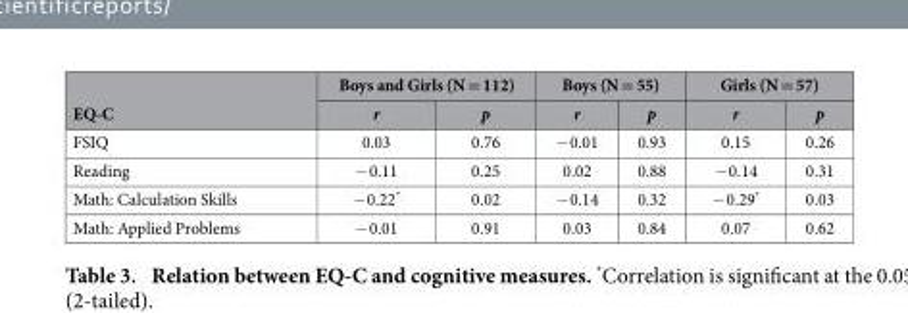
<table><thead><tr><td rowspan="2">EQ-C</td><td colspan="2">Boys and Girls (N = 112)</td><td colspan="2">Boys (N = 55)</td><td colspan="2">Girls (N = 57)</td></tr><tr><td>r</td><td>p</td><td>r</td><td>p</td><td>r</td><td>p</td></tr></thead><tbody><tr><td>FSIQ</td><td>0.03</td><td>0.76</td><td>− 0.01</td><td>0.93</td><td>0.15</td><td>0.26</td></tr><tr><td>Reading</td><td>− 0.11</td><td>0.25</td><td>0.02</td><td>0.88</td><td>− 0.14</td><td>0.31</td></tr><tr><td>Math: Calculation Skills</td><td>− 0.22*</td><td>0.02</td><td>− 0.14</td><td>0.32</td><td>− 0.29*</td><td>0.03</td></tr><tr><td>Math: Applied Problems</td><td>− 0.01</td><td>0.91</td><td>0.03</td><td>0.84</td><td>0.07</td><td>0.62</td></tr></tbody></table>